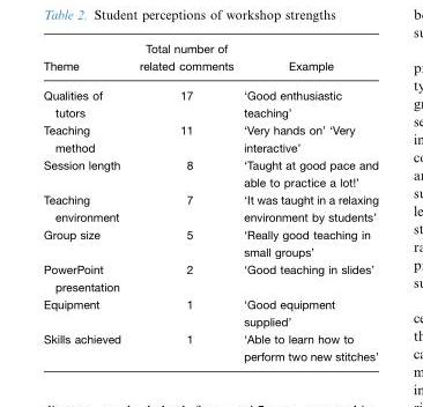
<table><thead><tr><td>Theme</td><td>Total number of related comments</td><td>Example</td></tr></thead><tbody><tr><td>Qualities of tutors</td><td>17</td><td>‘Good enthusiastic teaching’</td></tr><tr><td>Teaching method</td><td>11</td><td>‘Very hands on’ ‘Very interactive’</td></tr><tr><td>Session length</td><td>8</td><td>‘Taught at good pace and able to practice a lot!’</td></tr><tr><td>Teaching environment</td><td>7</td><td>‘It was taught in a relaxing environment by students’</td></tr><tr><td>Group size</td><td>5</td><td>‘Really good teaching in small groups’</td></tr><tr><td>PowerPoint presentation</td><td>2</td><td>‘Good teaching in slides’</td></tr><tr><td>Equipment</td><td>1</td><td>‘Good equipment supplied’</td></tr><tr><td>Skills achieved</td><td>1</td><td>‘Able to learn how to perform two new stitches’</td></tr></tbody></table>